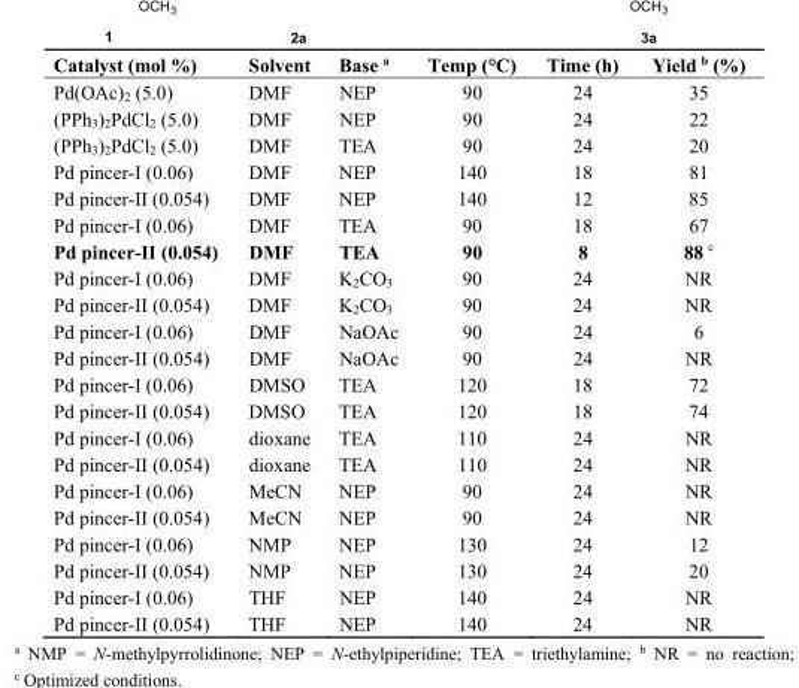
<table><thead><tr><td>Catalyst (mol %)</td><td>Solvent</td><td>Base <sup>a</sup></td><td>Temp (°C)</td><td>Time (h)</td><td>Yield <sup>b</sup> (%)</td></tr></thead><tbody><tr><td>Pd(OAc)<sub>2</sub> (5.0)</td><td>DMF</td><td>NEP</td><td>90</td><td>24</td><td>35</td></tr><tr><td>(PPh<sub>3</sub>)<sub>2</sub>PdCl<sub>2</sub> (5.0)</td><td>DMF</td><td>NEP</td><td>90</td><td>24</td><td>22</td></tr><tr><td>(PPh<sub>3</sub>)<sub>2</sub>PdCl<sub>2</sub> (5.0)</td><td>DMF</td><td>TEA</td><td>90</td><td>24</td><td>20</td></tr><tr><td>Pd pincer-I (0.06)</td><td>DMF</td><td>NEP</td><td>140</td><td>18</td><td>81</td></tr><tr><td>Pd pincer-II (0.054)</td><td>DMF</td><td>NEP</td><td>140</td><td>12</td><td>85</td></tr><tr><td>Pd pincer-I (0.06)</td><td>DMF</td><td>TEA</td><td>90</td><td>18</td><td>67</td></tr><tr><td>Pd pincer-II (0.054)</td><td>DMF</td><td>TEA</td><td>90</td><td>8</td><td>88 <sup>c</sup></td></tr><tr><td>Pd pincer-I (0.06)</td><td>DMF</td><td>K<sub>2</sub>CO<sub>3</sub></td><td>90</td><td>24</td><td>NR</td></tr><tr><td>Pd pincer-II (0.054)</td><td>DMF</td><td>K<sub>2</sub>CO<sub>3</sub></td><td>90</td><td>24</td><td>NR</td></tr><tr><td>Pd pincer-I (0.06)</td><td>DMF</td><td>NaOAc</td><td>90</td><td>24</td><td>6</td></tr><tr><td>Pd pincer-II (0.054)</td><td>DMF</td><td>NaOAc</td><td>90</td><td>24</td><td>NR</td></tr><tr><td>Pd pincer-I (0.06)</td><td>DMSO</td><td>TEA</td><td>120</td><td>18</td><td>72</td></tr><tr><td>Pd pincer-II (0.054)</td><td>DMSO</td><td>TEA</td><td>120</td><td>18</td><td>74</td></tr><tr><td>Pd pincer-I (0.06)</td><td>dioxane</td><td>TEA</td><td>110</td><td>24</td><td>NR</td></tr><tr><td>Pd pincer-II (0.054)</td><td>dioxane</td><td>TEA</td><td>110</td><td>24</td><td>NR</td></tr><tr><td>Pd pincer-I (0.06)</td><td>MeCN</td><td>NEP</td><td>90</td><td>24</td><td>NR</td></tr><tr><td>Pd pincer-II (0.054)</td><td>MeCN</td><td>NEP</td><td>90</td><td>24</td><td>NR</td></tr><tr><td>Pd pincer-I (0.06)</td><td>NMP</td><td>NEP</td><td>130</td><td>24</td><td>12</td></tr><tr><td>Pd pincer-II (0.054)</td><td>NMP</td><td>NEP</td><td>130</td><td>24</td><td>20</td></tr><tr><td>Pd pincer-I (0.06)</td><td>THF</td><td>NEP</td><td>140</td><td>24</td><td>NR</td></tr><tr><td>Pd pincer-II (0.054)</td><td>THF</td><td>NEP</td><td>140</td><td>24</td><td>NR</td></tr></tbody></table>